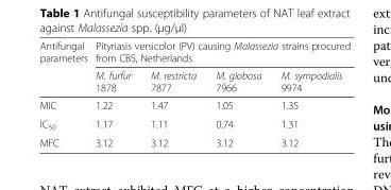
<table><thead><tr><td rowspan="2">Antifungal parameters</td><td colspan="4">Pityriasis versicolor (PV) causing Malassezia strains procured from CBS, Netherlands</td></tr><tr><td>M. furfur 1878</td><td>M. restricta 7877</td><td>M. globosa 7966</td><td>M. sympodialis 9974</td></tr></thead><tbody><tr><td>MIC</td><td>1.22</td><td>1.47</td><td>1.05</td><td>1.35</td></tr><tr><td>IC<sub>50</sub></td><td>1.17</td><td>1.11</td><td>0.74</td><td>1.31</td></tr><tr><td>MFC</td><td>3.12</td><td>3.12</td><td>3.12</td><td>3.12</td></tr></tbody></table>